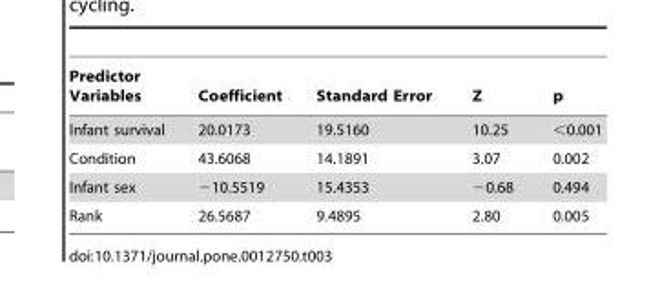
<table><thead><tr><td>Predictor Variables</td><td>Coefficient</td><td>Standard Error</td><td>Z</td><td>p</td></tr></thead><tbody><tr><td>Infant survival</td><td>20.0173</td><td>19.5160</td><td>10.25</td><td>&lt;0.001</td></tr><tr><td>Condition</td><td>43.6068</td><td>14.1891</td><td>3.07</td><td>0.002</td></tr><tr><td>Infant sex</td><td>−10.5519</td><td>15.4353</td><td>−0.68</td><td>0.494</td></tr><tr><td>Rank</td><td>26.5687</td><td>9.4895</td><td>2.80</td><td>0.005</td></tr></tbody></table>